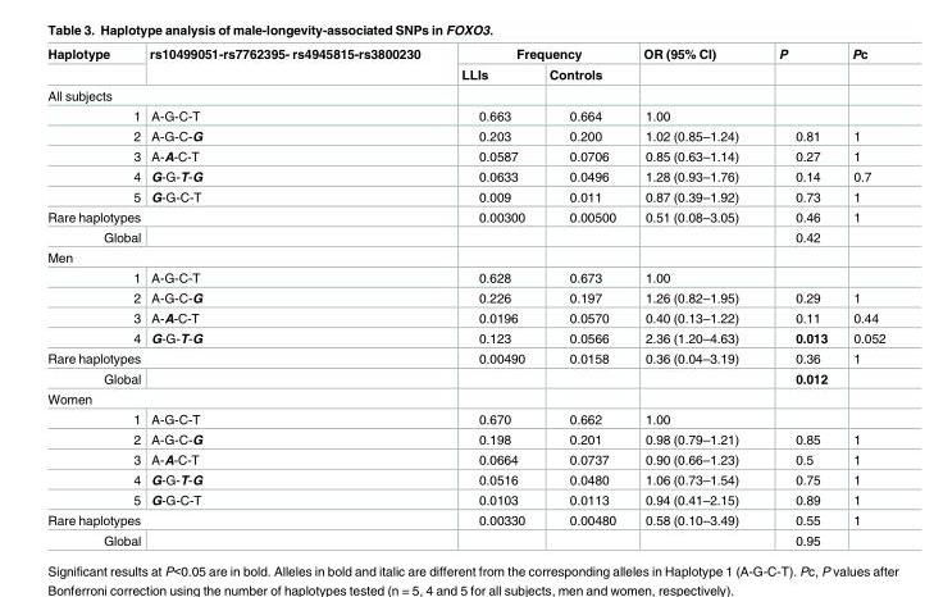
<table><thead><tr><td rowspan="2">Haplotype</td><td rowspan="2">rs10499051-rs7762395- rs4945815-rs3800230</td><td colspan="2">Frequency</td><td rowspan="2">OR (95% CI)</td><td rowspan="2">P</td><td rowspan="2">Pc</td></tr><tr><td>LLIs</td><td>Controls</td></tr></thead><tbody><tr><td colspan="7">All subjects</td></tr><tr><td>1</td><td>A-G-C-T</td><td>0.663</td><td>0.664</td><td>1.00</td><td></td><td></td></tr><tr><td>2</td><td>A-G-C-G</td><td>0.203</td><td>0.200</td><td>1.02 (0.85–1.24)</td><td>0.81</td><td>1</td></tr><tr><td>3</td><td>A-A-C-T</td><td>0.0587</td><td>0.0706</td><td>0.85 (0.63–1.14)</td><td>0.27</td><td>1</td></tr><tr><td>4</td><td>G-G-T-G</td><td>0.0633</td><td>0.0496</td><td>1.28 (0.93–1.76)</td><td>0.14</td><td>0.7</td></tr><tr><td>5</td><td>G-G-C-T</td><td>0.009</td><td>0.011</td><td>0.87 (0.39–1.92)</td><td>0.73</td><td>1</td></tr><tr><td colspan="2">Rare haplotypes</td><td>0.00300</td><td>0.00500</td><td>0.51 (0.08–3.05)</td><td>0.46</td><td>1</td></tr><tr><td>Global</td><td></td><td></td><td></td><td></td><td>0.42</td><td></td></tr><tr><td colspan="7">Men</td></tr><tr><td>1</td><td>A-G-C-T</td><td>0.628</td><td>0.673</td><td>1.00</td><td></td><td></td></tr><tr><td>2</td><td>A-G-C-G</td><td>0.226</td><td>0.197</td><td>1.26 (0.82–1.95)</td><td>0.29</td><td>1</td></tr><tr><td>3</td><td>A-A-C-T</td><td>0.0196</td><td>0.0570</td><td>0.40 (0.13–1.22)</td><td>0.11</td><td>0.44</td></tr><tr><td>4</td><td>G-G-T-G</td><td>0.123</td><td>0.0566</td><td>2.36 (1.20–4.63)</td><td>0.013</td><td>0.052</td></tr><tr><td colspan="2">Rare haplotypes</td><td>0.00490</td><td>0.0158</td><td>0.36 (0.04–3.19)</td><td>0.36</td><td>1</td></tr><tr><td>Global</td><td></td><td></td><td></td><td></td><td>0.012</td><td></td></tr><tr><td colspan="7">Women</td></tr><tr><td>1</td><td>A-G-C-T</td><td>0.670</td><td>0.662</td><td>1.00</td><td></td><td></td></tr><tr><td>2</td><td>A-G-C-G</td><td>0.198</td><td>0.201</td><td>0.98 (0.79–1.21)</td><td>0.85</td><td>1</td></tr><tr><td>3</td><td>A-A-C-T</td><td>0.0664</td><td>0.0737</td><td>0.90 (0.66–1.23)</td><td>0.5</td><td>1</td></tr><tr><td>4</td><td>G-G-T-G</td><td>0.0516</td><td>0.0480</td><td>1.06 (0.73–1.54)</td><td>0.75</td><td>1</td></tr><tr><td>5</td><td>G-G-C-T</td><td>0.0103</td><td>0.0113</td><td>0.94 (0.41–2.15)</td><td>0.89</td><td>1</td></tr><tr><td colspan="2">Rare haplotypes</td><td>0.00330</td><td>0.00480</td><td>0.58 (0.10–3.49)</td><td>0.55</td><td>1</td></tr><tr><td>Global</td><td></td><td></td><td></td><td></td><td>0.95</td><td></td></tr></tbody></table>